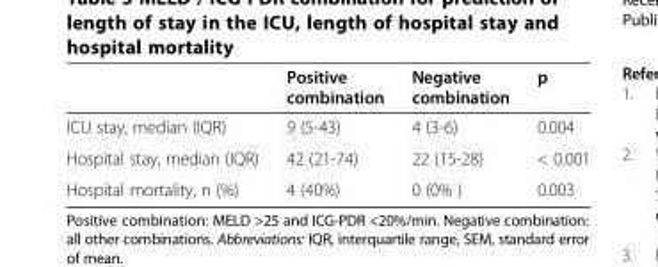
<table><thead><tr><td></td><td>Positive combination</td><td>Negative combination</td><td>p</td></tr></thead><tbody><tr><td>ICU stay, median (IQR)</td><td>9 (5-43)</td><td>4 (3-6)</td><td>0.004</td></tr><tr><td>Hospital stay, median (IQR)</td><td>42 (21-74)</td><td>22 (15-28)</td><td>&lt; 0.001</td></tr><tr><td>Hospital mortality, n (%)</td><td>4 (40%)</td><td>0 (0% )</td><td>0.003</td></tr></tbody></table>